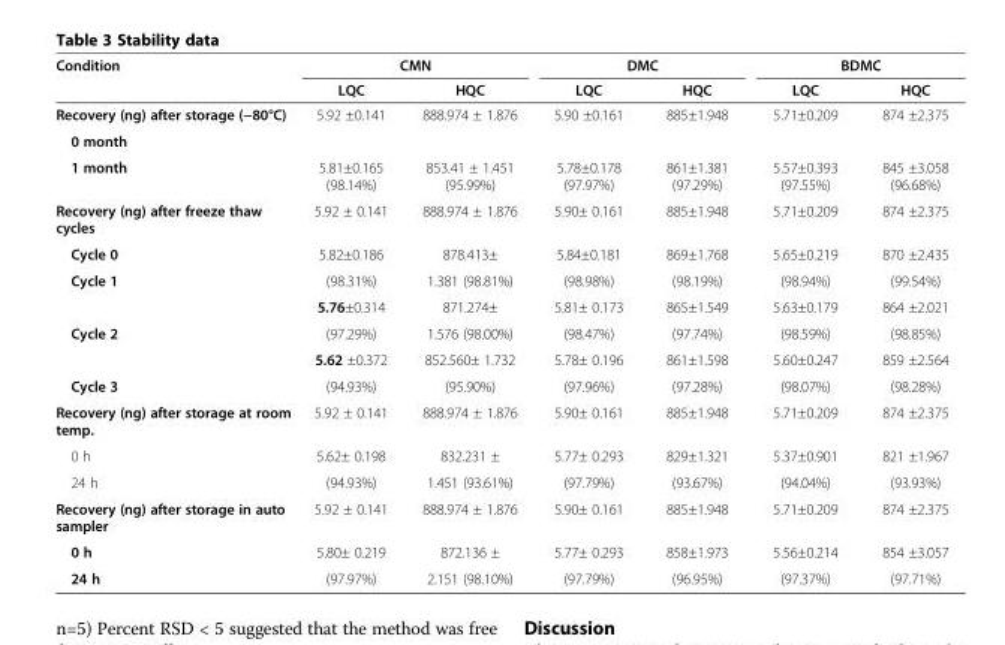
<table><thead><tr><td rowspan="2">Condition</td><td colspan="2">CMN</td><td colspan="2">DMC</td><td colspan="2">BDMC</td></tr><tr><td>LQC</td><td>HQC</td><td>LQC</td><td>HQC</td><td>LQC</td><td>HQC</td></tr></thead><tbody><tr><td>Recovery (ng) after storage (−80°C)</td><td>5.92 ±0.141</td><td>888.974 ± 1.876</td><td>5.90 ±0.161</td><td>885±1.948</td><td>5.71±0.209</td><td>874 ±2.375</td></tr><tr><td colspan="7">0 month</td></tr><tr><td>1 month</td><td>5.81±0.165 (98.14%)</td><td>853.41 ± 1.451 (95.99%)</td><td>5.78±0.178 (97.97%)</td><td>861±1.381 (97.29%)</td><td>5.57±0.393 (97.55%)</td><td>845 ±3.058 (96.68%)</td></tr><tr><td>Recovery (ng) after freeze thaw cycles</td><td>5.92 ± 0.141</td><td>888.974 ± 1.876</td><td>5.90± 0.161</td><td>885±1.948</td><td>5.71±0.209</td><td>874 ±2.375</td></tr><tr><td>Cycle 0</td><td>5.82±0.186</td><td>878.413±</td><td>5.84±0.181</td><td>869±1.768</td><td>5.65±0.219</td><td>870 ±2.435</td></tr><tr><td rowspan="2">Cycle 1</td><td>(98.31%)</td><td>1.381 (98.81%)</td><td>(98.98%)</td><td>(98.19%)</td><td>(98.94%)</td><td>(99.54%)</td></tr><tr><td>5.76±0.314</td><td>871.274±</td><td>5.81± 0.173</td><td>865±1.549</td><td>5.63±0.179</td><td>864 ±2.021</td></tr><tr><td rowspan="2">Cycle 2</td><td>(97.29%)</td><td>1.576 (98.00%)</td><td>(98.47%)</td><td>(97.74%)</td><td>(98.59%)</td><td>(98.85%)</td></tr><tr><td>5.62 ±0.372</td><td>852.560± 1.732</td><td>5.78± 0.196</td><td>861±1.598</td><td>5.60±0.247</td><td>859 ±2.564</td></tr><tr><td>Cycle 3</td><td>(94.93%)</td><td>(95.90%)</td><td>(97.96%)</td><td>(97.28%)</td><td>(98.07%)</td><td>(98.28%)</td></tr><tr><td>Recovery (ng) after storage at room temp.</td><td>5.92 ± 0.141</td><td>888.974 ± 1.876</td><td>5.90± 0.161</td><td>885±1.948</td><td>5.71±0.209</td><td>874 ±2.375</td></tr><tr><td>0 h</td><td>5.62± 0.198</td><td>832.231 ±</td><td>5.77± 0.293</td><td>829±1.321</td><td>5.37±0.901</td><td>821 ±1.967</td></tr><tr><td>24 h</td><td>(94.93%)</td><td>1.451 (93.61%)</td><td>(97.79%)</td><td>(93.67%)</td><td>(94.04%)</td><td>(93.93%)</td></tr><tr><td>Recovery (ng) after storage in auto sampler</td><td>5.92 ± 0.141</td><td>888.974 ± 1.876</td><td>5.90± 0.161</td><td>885±1.948</td><td>5.71±0.209</td><td>874 ±2.375</td></tr><tr><td>0 h</td><td>5.80± 0.219</td><td>872.136 ±</td><td>5.77± 0.293</td><td>858±1.973</td><td>5.56±0.214</td><td>854 ±3.057</td></tr><tr><td>24 h</td><td>(97.97%)</td><td>2.151 (98.10%)</td><td>(97.79%)</td><td>(96.95%)</td><td>(97.37%)</td><td>(97.71%)</td></tr></tbody></table>